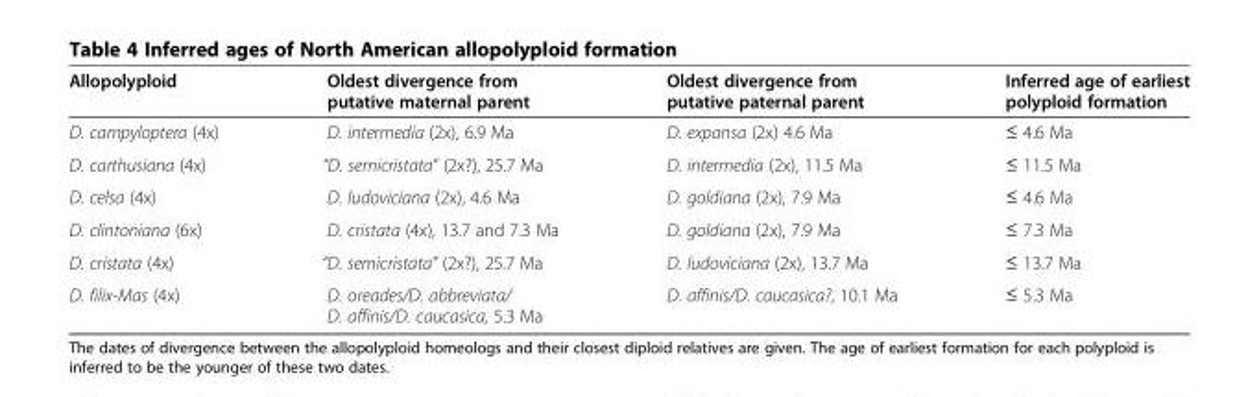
<table><thead><tr><td>Allopolyploid</td><td>Oldest divergence from putative maternal parent</td><td>Oldest divergence from putative paternal parent</td><td>Inferred age of earliest polyploid formation</td></tr></thead><tbody><tr><td>D. campyloptera (4x)</td><td>D. intermedia (2x), 6.9 Ma</td><td>D. expansa (2x) 4.6 Ma</td><td>≤ 4.6 Ma</td></tr><tr><td>D. carthusiana (4x)</td><td>“D. semicristata” (2x?), 25.7 Ma</td><td>D. intermedia (2x), 11.5 Ma</td><td>≤ 11.5 Ma</td></tr><tr><td>D. celsa (4x)</td><td>D. ludoviciana (2x), 4.6 Ma</td><td>D. goldiana (2x), 7.9 Ma</td><td>≤ 4.6 Ma</td></tr><tr><td>D. clintoniana (6x)</td><td>D. cristata (4x), 13.7 and 7.3 Ma</td><td>D. goldiana (2x), 7.9 Ma</td><td>≤ 7.3 Ma</td></tr><tr><td>D. cristata (4x)</td><td>“D. semicristata” (2x?), 25.7 Ma</td><td>D. ludoviciana (2x), 13.7 Ma</td><td>≤ 13.7 Ma</td></tr><tr><td>D. filix-Mas (4x)</td><td>D. oreades/D. abbreviata/ D. affinis/D. caucasica, 5.3 Ma</td><td>D. affinis/D. caucasica?, 10.1 Ma</td><td>≤ 5.3 Ma</td></tr></tbody></table>